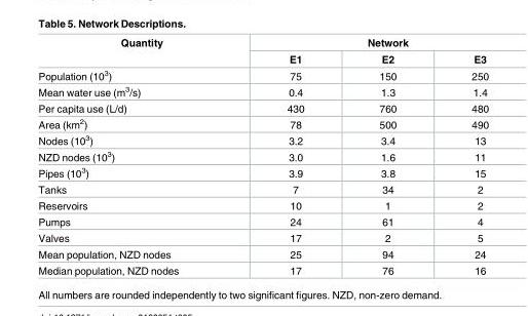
<table><thead><tr><td rowspan="2">Quantity</td><td colspan="3">Network</td></tr><tr><td>E1</td><td>E2</td><td>E3</td></tr></thead><tbody><tr><td>Population (10<sup>3</sup>)</td><td>75</td><td>150</td><td>250</td></tr><tr><td>Mean water use (m<sup>3</sup>/s)</td><td>0.4</td><td>1.3</td><td>1.4</td></tr><tr><td>Per capita use (L/d)</td><td>430</td><td>760</td><td>480</td></tr><tr><td>Area (km<sup>2</sup>)</td><td>78</td><td>500</td><td>490</td></tr><tr><td>Nodes (10<sup>3</sup>)</td><td>3.2</td><td>3.4</td><td>13</td></tr><tr><td>NZD nodes (10<sup>3</sup>)</td><td>3.0</td><td>1.6</td><td>11</td></tr><tr><td>Pipes (10<sup>3</sup>)</td><td>3.9</td><td>3.8</td><td>15</td></tr><tr><td>Tanks</td><td>7</td><td>34</td><td>2</td></tr><tr><td>Reservoirs</td><td>10</td><td>1</td><td>2</td></tr><tr><td>Pumps</td><td>24</td><td>61</td><td>4</td></tr><tr><td>Valves</td><td>17</td><td>2</td><td>5</td></tr><tr><td>Mean population, NZD nodes</td><td>25</td><td>94</td><td>24</td></tr><tr><td>Median population, NZD nodes</td><td>17</td><td>76</td><td>16</td></tr></tbody></table>